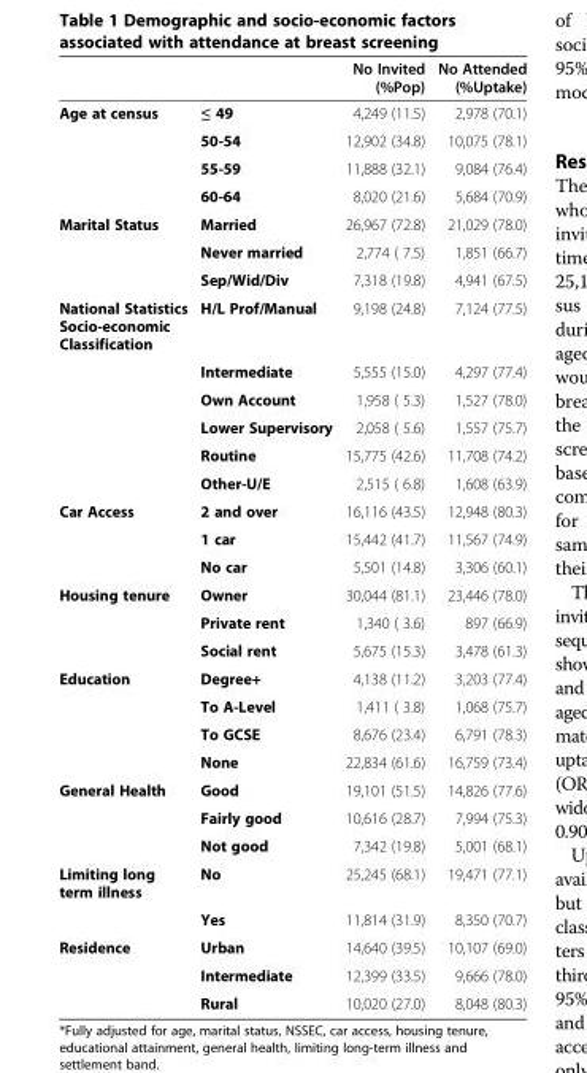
<table><thead><tr><td></td><td></td><td>No Invited (%Pop)</td><td>No Attended (%Uptake)</td></tr></thead><tbody><tr><td rowspan="4">Age at census</td><td>≤ 49</td><td>4,249 (11.5)</td><td>2,978 (70.1)</td></tr><tr><td>50-54</td><td>12,902 (34.8)</td><td>10,075 (78.1)</td></tr><tr><td>55-59</td><td>11,888 (32.1)</td><td>9,084 (76.4)</td></tr><tr><td>60-64</td><td>8,020 (21.6)</td><td>5,684 (70.9)</td></tr><tr><td rowspan="3">Marital Status</td><td>Married</td><td>26,967 (72.8)</td><td>21,029 (78.0)</td></tr><tr><td>Never married</td><td>2,774 ( 7.5)</td><td>1,851 (66.7)</td></tr><tr><td>Sep/Wid/Div</td><td>7,318 (19.8)</td><td>4,941 (67.5)</td></tr><tr><td rowspan="6">National Statistics Socio-economic Classification</td><td>H/L Prof/Manual</td><td>9,198 (24.8)</td><td>7,124 (77.5)</td></tr><tr><td>Intermediate</td><td>5,555 (15.0)</td><td>4,297 (77.4)</td></tr><tr><td>Own Account</td><td>1,958 ( 5.3)</td><td>1,527 (78.0)</td></tr><tr><td>Lower Supervisory</td><td>2,058 ( 5.6)</td><td>1,557 (75.7)</td></tr><tr><td>Routine</td><td>15,775 (42.6)</td><td>11,708 (74.2)</td></tr><tr><td>Other-U/E</td><td>2,515 ( 6.8)</td><td>1,608 (63.9)</td></tr><tr><td rowspan="3">Car Access</td><td>2 and over</td><td>16,116 (43.5)</td><td>12,948 (80.3)</td></tr><tr><td>1 car</td><td>15,442 (41.7)</td><td>11,567 (74.9)</td></tr><tr><td>No car</td><td>5,501 (14.8)</td><td>3,306 (60.1)</td></tr><tr><td rowspan="3">Housing tenure</td><td>Owner</td><td>30,044 (81.1)</td><td>23,446 (78.0)</td></tr><tr><td>Private rent</td><td>1,340 ( 3.6)</td><td>897 (66.9)</td></tr><tr><td>Social rent</td><td>5,675 (15.3)</td><td>3,478 (61.3)</td></tr><tr><td rowspan="4">Education</td><td>Degree+</td><td>4,138 (11.2)</td><td>3,203 (77.4)</td></tr><tr><td>To A-Level</td><td>1,411 ( 3.8)</td><td>1,068 (75.7)</td></tr><tr><td>To GCSE</td><td>8,676 (23.4)</td><td>6,791 (78.3)</td></tr><tr><td>None</td><td>22,834 (61.6)</td><td>16,759 (73.4)</td></tr><tr><td rowspan="3">General Health</td><td>Good</td><td>19,101 (51.5)</td><td>14,826 (77.6)</td></tr><tr><td>Fairly good</td><td>10,616 (28.7)</td><td>7,994 (75.3)</td></tr><tr><td>Not good</td><td>7,342 (19.8)</td><td>5,001 (68.1)</td></tr><tr><td rowspan="2">Limiting long term illness</td><td>No</td><td>25,245 (68.1)</td><td>19,471 (77.1)</td></tr><tr><td>Yes</td><td>11,814 (31.9)</td><td>8,350 (70.7)</td></tr><tr><td rowspan="3">Residence</td><td>Urban</td><td>14,640 (39.5)</td><td>10,107 (69.0)</td></tr><tr><td>Intermediate</td><td>12,399 (33.5)</td><td>9,666 (78.0)</td></tr><tr><td>Rural</td><td>10,020 (27.0)</td><td>8,048 (80.3)</td></tr></tbody></table>